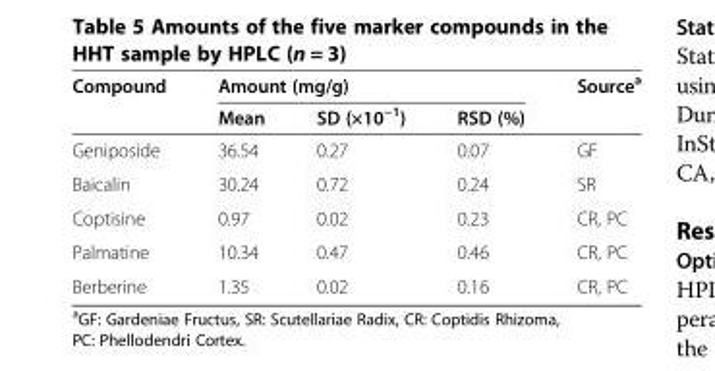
<table><thead><tr><td rowspan="2">Compound</td><td colspan="3">Amount (mg/g)</td><td rowspan="2">Source<sup>a</sup></td></tr><tr><td>Mean</td><td>SD (×10<sup>−1</sup>)</td><td>RSD (%)</td></tr></thead><tbody><tr><td>Geniposide</td><td>36.54</td><td>0.27</td><td>0.07</td><td>GF</td></tr><tr><td>Baicalin</td><td>30.24</td><td>0.72</td><td>0.24</td><td>SR</td></tr><tr><td>Coptisine</td><td>0.97</td><td>0.02</td><td>0.23</td><td>CR, PC</td></tr><tr><td>Palmatine</td><td>10.34</td><td>0.47</td><td>0.46</td><td>CR, PC</td></tr><tr><td>Berberine</td><td>1.35</td><td>0.02</td><td>0.16</td><td>CR, PC</td></tr></tbody></table>